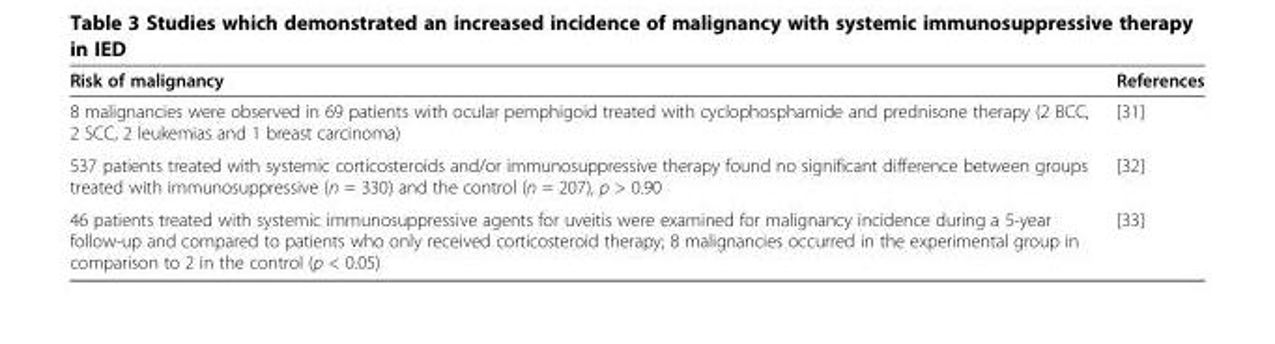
<table><thead><tr><td>Risk of malignancy</td><td>References</td></tr></thead><tbody><tr><td>8 malignancies were observed in 69 patients with ocular pemphigoid treated with cyclophosphamide and prednisone therapy (2 BCC, 2 SCC, 2 leukemias and 1 breast carcinoma)</td><td>[31]</td></tr><tr><td>537 patients treated with systemic corticosteroids and/or immunosuppressive therapy found no significant difference between groups treated with immunosuppressive (n = 330) and the control (n = 207), p &gt; 0.90</td><td>[32]</td></tr><tr><td>46 patients treated with systemic immunosuppressive agents for uveitis were examined for malignancy incidence during a 5-year follow-up and compared to patients who only received corticosteroid therapy; 8 malignancies occurred in the experimental group in comparison to 2 in the control (p &lt; 0.05)</td><td>[33]</td></tr></tbody></table>